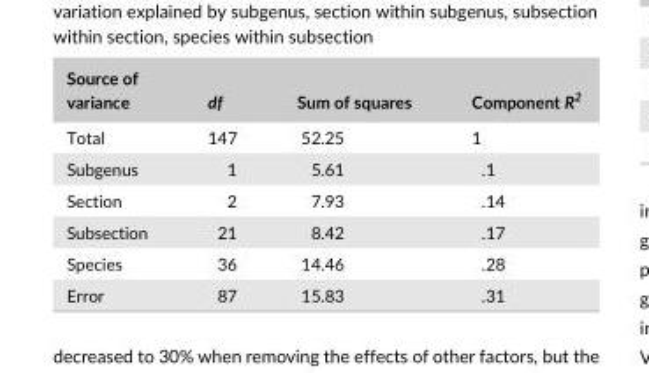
<table><thead><tr><td>Source of variance</td><td>df</td><td>Sum of squares</td><td>Component R<sup>2</sup></td></tr></thead><tbody><tr><td>Total</td><td>147</td><td>52.25</td><td>1</td></tr><tr><td>Subgenus</td><td>1</td><td>5.61</td><td>.1</td></tr><tr><td>Section</td><td>2</td><td>7.93</td><td>.14</td></tr><tr><td>Subsection</td><td>21</td><td>8.42</td><td>.17</td></tr><tr><td>Species</td><td>36</td><td>14.46</td><td>.28</td></tr><tr><td>Error</td><td>87</td><td>15.83</td><td>.31</td></tr></tbody></table>